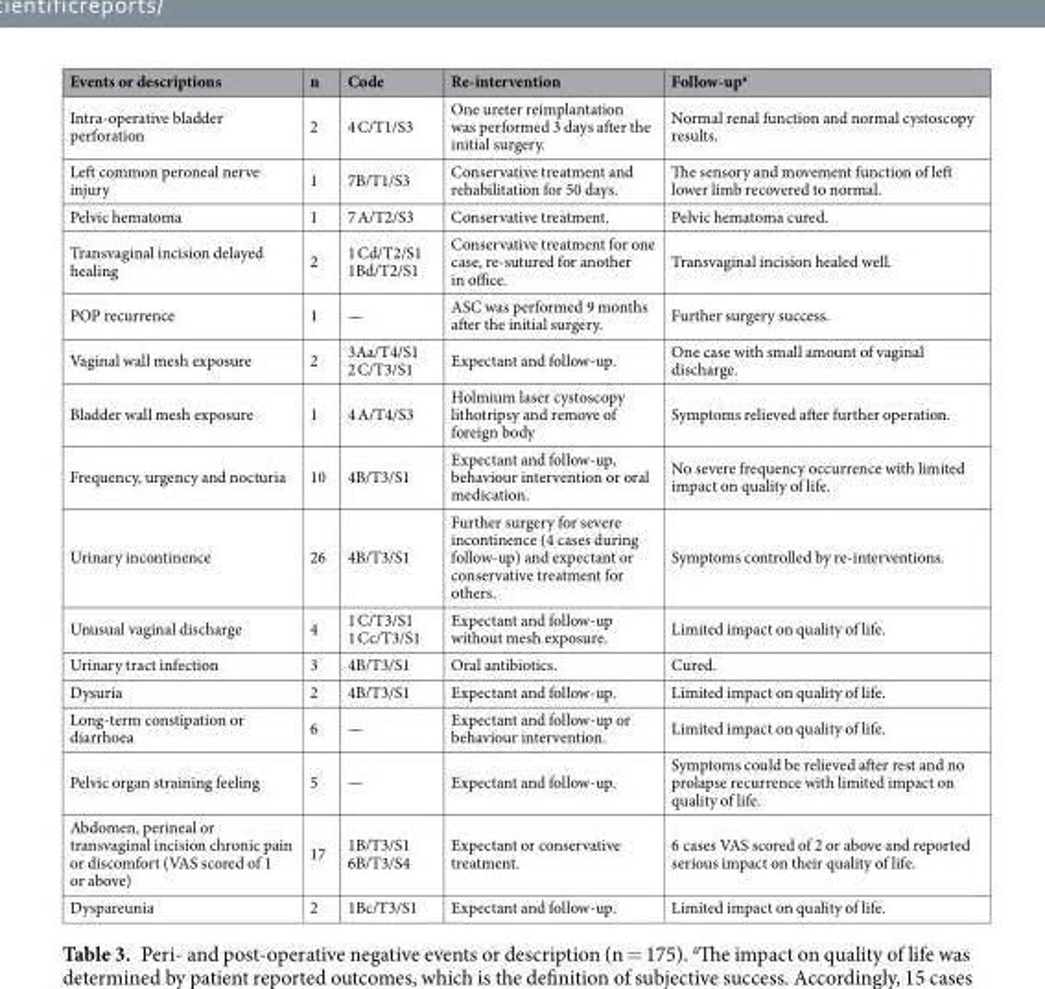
<table><thead><tr><td>Events or descriptions</td><td>n</td><td>Code</td><td>Re-intervention</td><td>Follow-up<sup>a</sup></td></tr></thead><tbody><tr><td>Intra-operative bladder perforation</td><td>2</td><td>4 C/T1/S3</td><td>One ureter reimplantation was performed 3 days after the initial surgery.</td><td>Normal renal function and normal cystoscopy results.</td></tr><tr><td>Left common peroneal nerve injury</td><td>1</td><td>7B/T1/S3</td><td>Conservative treatment and rehabilitation for 50 days.</td><td>The sensory and movement function of left lower limb recovered to normal.</td></tr><tr><td>Pelvic hematoma</td><td>1</td><td>7 A/T2/S3</td><td>Conservative treatment.</td><td>Pelvic hematoma cured.</td></tr><tr><td>Transvaginal incision delayed healing</td><td>2</td><td>1 Cd/T2/S1 1Bd/T2/S1</td><td>Conservative treatment for one case, re-sutured for another in office.</td><td>Transvaginal incision healed well.</td></tr><tr><td>POP recurrence</td><td>1</td><td>—</td><td>ASC was performed 9 months after the initial surgery.</td><td>Further surgery success.</td></tr><tr><td>Vaginal wall mesh exposure</td><td>2</td><td>3Aa/T4/S1 2 C/T3/S1</td><td>Expectant and follow-up.</td><td>One case with small amount of vaginal discharge.</td></tr><tr><td>Bladder wall mesh exposure</td><td>1</td><td>4 A/T4/S3</td><td>Holmium laser cystoscopy lithotripsy and remove of foreign body</td><td>Symptoms relieved after further operation.</td></tr><tr><td>Frequency, urgency and nocturia</td><td>10</td><td>4B/T3/S1</td><td>Expectant and follow-up, behaviour intervention or oral medication.</td><td>No severe frequency occurrence with limited impact on quality of life.</td></tr><tr><td>Urinary incontinence</td><td>26</td><td>4B/T3/S1</td><td>Further surgery for severe incontinence (4 cases during follow-up) and expectant or conservative treatment for others.</td><td>Symptoms controlled by re-interventions.</td></tr><tr><td>Unusual vaginal discharge</td><td>4</td><td>1 C/T3/S1 1 Cc/T3/S1</td><td>Expectant and follow-up without mesh exposure.</td><td>Limited impact on quality of life.</td></tr><tr><td>Urinary tract infection</td><td>3</td><td>4B/T3/S1</td><td>Oral antibiotics.</td><td>Cured.</td></tr><tr><td>Dysuria</td><td>2</td><td>4B/T3/S1</td><td>Expectant and follow-up.</td><td>Limited impact on quality of life.</td></tr><tr><td>Long-term constipation or diarrhoea</td><td>6</td><td>—</td><td>Expectant and follow-up or behaviour intervention.</td><td>Limited impact on quality of life.</td></tr><tr><td>Pelvic organ straining feeling</td><td>5</td><td>—</td><td>Expectant and follow-up.</td><td>Symptoms could be relieved after rest and no prolapse recurrence with limited impact on quality of life.</td></tr><tr><td>Abdomen, perineal or transvaginal incision chronic pain or discomfort (VAS scored of 1 or above)</td><td>17</td><td>1B/T3/S1 6B/T3/S4</td><td>Expectant or conservative treatment.</td><td>6 cases VAS scored of 2 or above and reported serious impact on their quality of life.</td></tr><tr><td>Dyspareunia</td><td>2</td><td>1Bc/T3/S1</td><td>Expectant and follow-up.</td><td>Limited impact on quality of life.</td></tr></tbody></table>